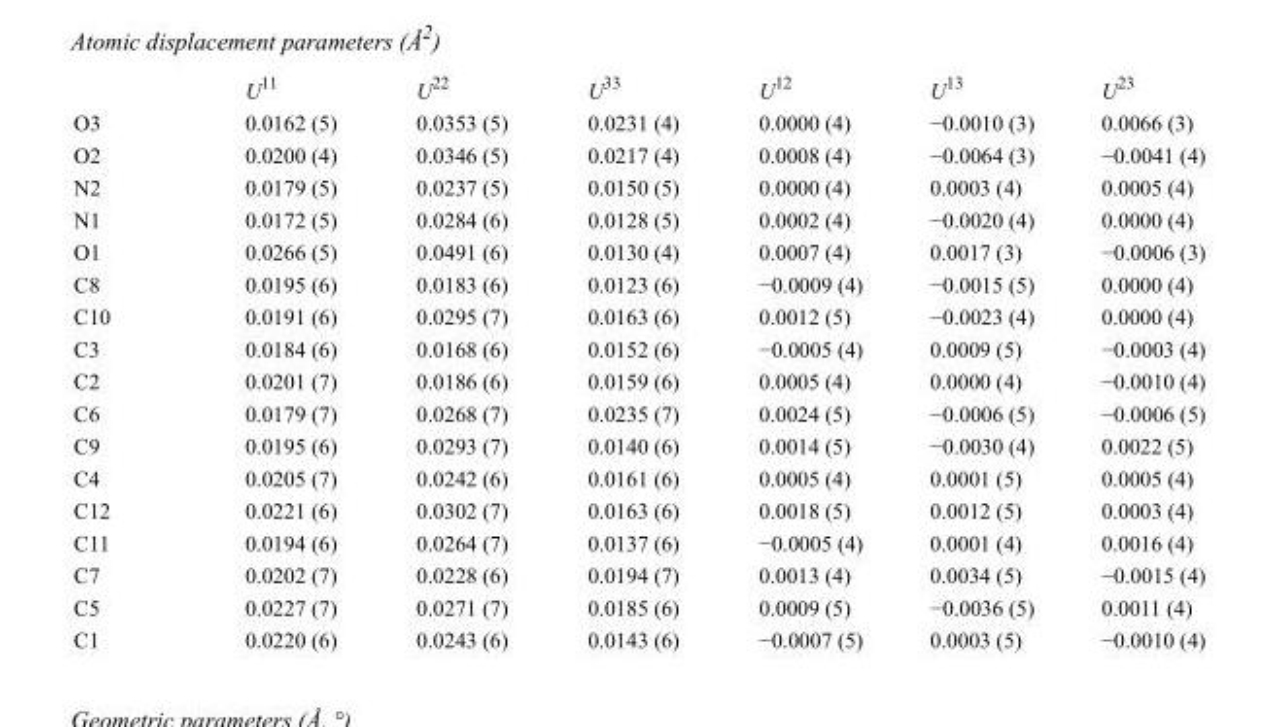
<table><thead><tr><td></td><td>U<sup>11</sup></td><td>U<sup>22</sup></td><td>U<sup>33</sup></td><td>U<sup>12</sup></td><td>U<sup>13</sup></td><td>U<sup>23</sup></td></tr></thead><tbody><tr><td>O3</td><td>0.0162 (5)</td><td>0.0353 (5)</td><td>0.0231 (4)</td><td>0.0000 (4)</td><td>−0.0010 (3)</td><td>0.0066 (3)</td></tr><tr><td>O2</td><td>0.0200 (4)</td><td>0.0346 (5)</td><td>0.0217 (4)</td><td>0.0008 (4)</td><td>−0.0064 (3)</td><td>−0.0041 (4)</td></tr><tr><td>N2</td><td>0.0179 (5)</td><td>0.0237 (5)</td><td>0.0150 (5)</td><td>0.0000 (4)</td><td>0.0003 (4)</td><td>0.0005 (4)</td></tr><tr><td>N1</td><td>0.0172 (5)</td><td>0.0284 (6)</td><td>0.0128 (5)</td><td>0.0002 (4)</td><td>−0.0020 (4)</td><td>0.0000 (4)</td></tr><tr><td>O1</td><td>0.0266 (5)</td><td>0.0491 (6)</td><td>0.0130 (4)</td><td>0.0007 (4)</td><td>0.0017 (3)</td><td>−0.0006 (3)</td></tr><tr><td>C8</td><td>0.0195 (6)</td><td>0.0183 (6)</td><td>0.0123 (6)</td><td>−0.0009 (4)</td><td>−0.0015 (5)</td><td>0.0000 (4)</td></tr><tr><td>C10</td><td>0.0191 (6)</td><td>0.0295 (7)</td><td>0.0163 (6)</td><td>0.0012 (5)</td><td>−0.0023 (4)</td><td>0.0000 (4)</td></tr><tr><td>C3</td><td>0.0184 (6)</td><td>0.0168 (6)</td><td>0.0152 (6)</td><td>−0.0005 (4)</td><td>0.0009 (5)</td><td>−0.0003 (4)</td></tr><tr><td>C2</td><td>0.0201 (7)</td><td>0.0186 (6)</td><td>0.0159 (6)</td><td>0.0005 (4)</td><td>0.0000 (4)</td><td>−0.0010 (4)</td></tr><tr><td>C6</td><td>0.0179 (7)</td><td>0.0268 (7)</td><td>0.0235 (7)</td><td>0.0024 (5)</td><td>−0.0006 (5)</td><td>−0.0006 (5)</td></tr><tr><td>C9</td><td>0.0195 (6)</td><td>0.0293 (7)</td><td>0.0140 (6)</td><td>0.0014 (5)</td><td>−0.0030 (4)</td><td>0.0022 (5)</td></tr><tr><td>C4</td><td>0.0205 (7)</td><td>0.0242 (6)</td><td>0.0161 (6)</td><td>0.0005 (4)</td><td>0.0001 (5)</td><td>0.0005 (4)</td></tr><tr><td>C12</td><td>0.0221 (6)</td><td>0.0302 (7)</td><td>0.0163 (6)</td><td>0.0018 (5)</td><td>0.0012 (5)</td><td>0.0003 (4)</td></tr><tr><td>C11</td><td>0.0194 (6)</td><td>0.0264 (7)</td><td>0.0137 (6)</td><td>−0.0005 (4)</td><td>0.0001 (4)</td><td>0.0016 (4)</td></tr><tr><td>C7</td><td>0.0202 (7)</td><td>0.0228 (6)</td><td>0.0194 (7)</td><td>0.0013 (4)</td><td>0.0034 (5)</td><td>−0.0015 (4)</td></tr><tr><td>C5</td><td>0.0227 (7)</td><td>0.0271 (7)</td><td>0.0185 (6)</td><td>0.0009 (5)</td><td>−0.0036 (5)</td><td>0.0011 (4)</td></tr><tr><td>C1</td><td>0.0220 (6)</td><td>0.0243 (6)</td><td>0.0143 (6)</td><td>−0.0007 (5)</td><td>0.0003 (5)</td><td>−0.0010 (4)</td></tr></tbody></table>